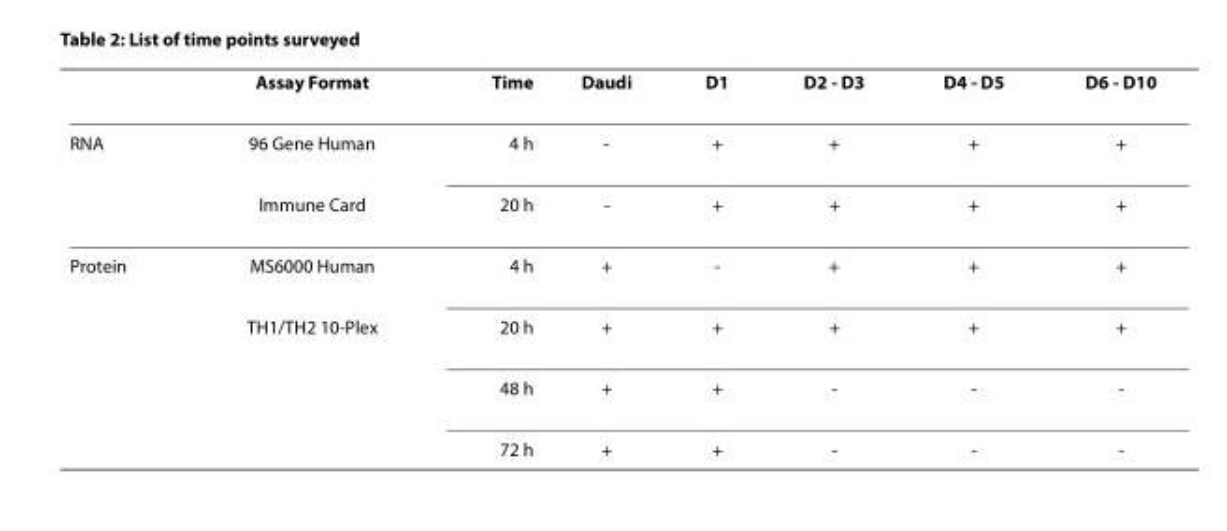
<table><thead><tr><td></td><td>Assay Format</td><td>Time</td><td>Daudi</td><td>D1</td><td>D2 - D3</td><td>D4 - D5</td><td>D6 - D10</td></tr></thead><tbody><tr><td rowspan="2">RNA</td><td>96 Gene Human</td><td>4 h</td><td>-</td><td>+</td><td>+</td><td>+</td><td>+</td></tr><tr><td>Immune Card</td><td>20 h</td><td>-</td><td>+</td><td>+</td><td>+</td><td>+</td></tr><tr><td rowspan="4">Protein</td><td>MS6000 Human</td><td>4 h</td><td>+</td><td>-</td><td>+</td><td>+</td><td>+</td></tr><tr><td>TH1/TH2 10-Plex</td><td>20 h</td><td>+</td><td>+</td><td>+</td><td>+</td><td>+</td></tr><tr><td></td><td>48 h</td><td>+</td><td>+</td><td>-</td><td>-</td><td>-</td></tr><tr><td></td><td>72 h</td><td>+</td><td>+</td><td>-</td><td>-</td><td>-</td></tr></tbody></table>